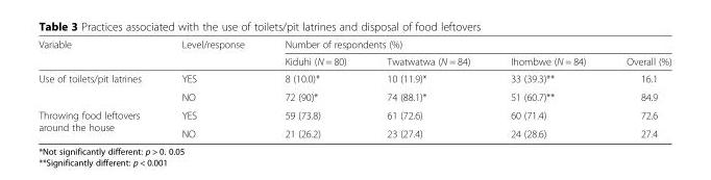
<table><thead><tr><td rowspan="2">Variable</td><td rowspan="2">Level/response</td><td colspan="4">Number of respondents (%)</td></tr><tr><td>Kiduhi (N = 80)</td><td>Twatwatwa (N = 84)</td><td>Ihombwe (N = 84)</td><td>Overall (%)</td></tr></thead><tbody><tr><td rowspan="2">Use of toilets/pit latrines</td><td>YES</td><td>8 (10.0)*</td><td>10 (11.9)*</td><td>33 (39.3)**</td><td>16.1</td></tr><tr><td>NO</td><td>72 (90)*</td><td>74 (88.1)*</td><td>51 (60.7)**</td><td>84.9</td></tr><tr><td rowspan="2">Throwing food leftovers around the house</td><td>YES</td><td>59 (73.8)</td><td>61 (72.6)</td><td>60 (71.4)</td><td>72.6</td></tr><tr><td>NO</td><td>21 (26.2)</td><td>23 (27.4)</td><td>24 (28.6)</td><td>27.4</td></tr></tbody></table>